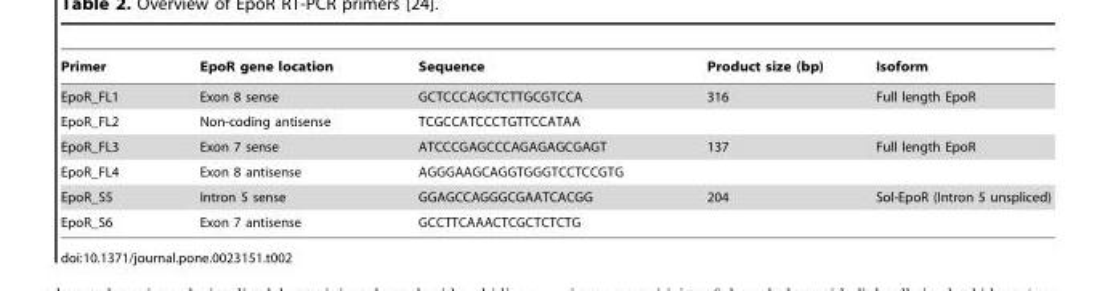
<table><thead><tr><td>Primer</td><td>EpoR gene location</td><td>Sequence</td><td>Product size (bp)</td><td>Isoform</td></tr></thead><tbody><tr><td>EpoR_FL1</td><td>Exon 8 sense</td><td>GCTCCCAGCTCTTGCGTCCA</td><td>316</td><td>Full length EpoR</td></tr><tr><td>EpoR_FL2</td><td>Non-coding antisense</td><td>TCGCCATCCCTGTTCCATAA</td><td></td><td></td></tr><tr><td>EpoR_FL3</td><td>Exon 7 sense</td><td>ATCCCGAGCCCAGAGAGCGAGT</td><td>137</td><td>Full length EpoR</td></tr><tr><td>EpoR_FL4</td><td>Exon 8 antisense</td><td>AGGGAAGCAGGTGGGTCCTCCGTG</td><td></td><td></td></tr><tr><td>EpoR_S5</td><td>Intron 5 sense</td><td>GGAGCCAGGGCGAATCACGG</td><td>204</td><td>Sol-EpoR (Intron 5 unspliced)</td></tr><tr><td>EpoR_S6</td><td>Exon 7 antisense</td><td>GCCTTCAAACTCGCTCTCTG</td><td></td><td></td></tr></tbody></table>